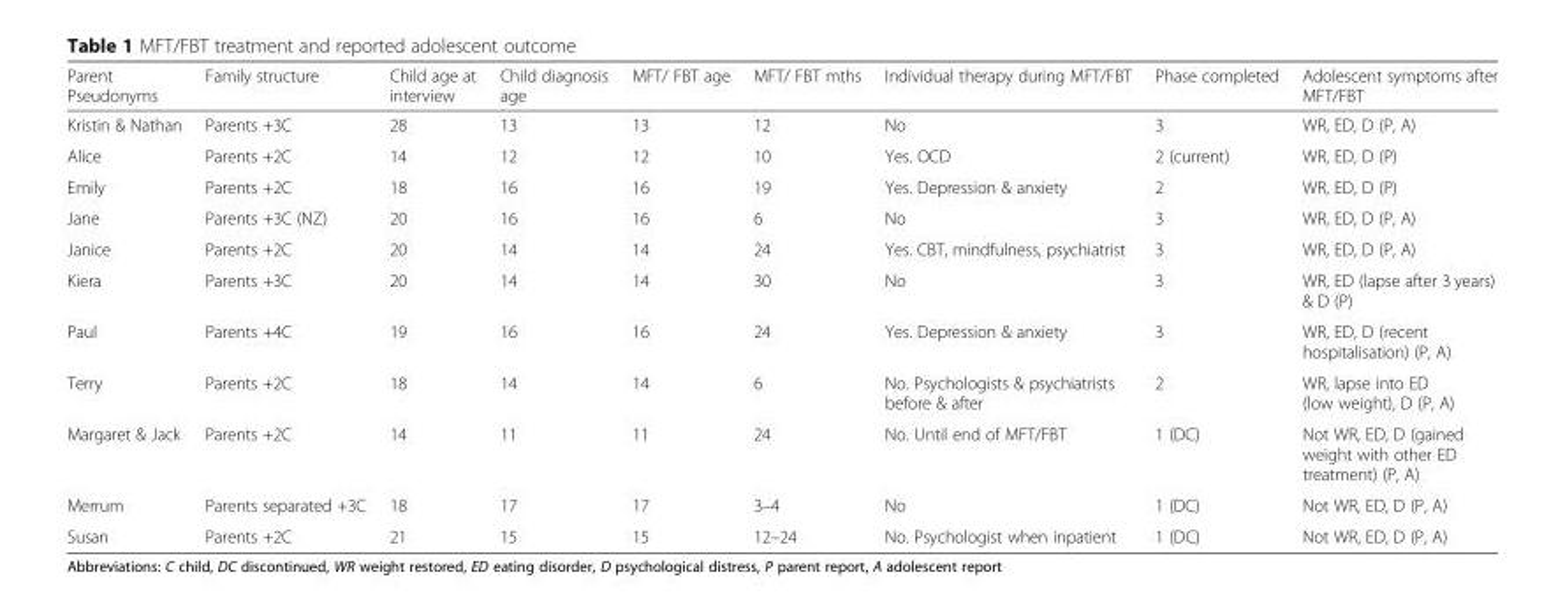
<table><thead><tr><td>Parent Pseudonyms</td><td>Family structure</td><td>Child age at interview</td><td>Child diagnosis age</td><td>MFT/ FBT age</td><td>MFT/ FBT mths</td><td>Individual therapy during MFT/FBT</td><td>Phase completed</td><td>Adolescent symptoms after MFT/FBT</td></tr></thead><tbody><tr><td>Kristin &amp; Nathan</td><td>Parents +3C</td><td>28</td><td>13</td><td>13</td><td>12</td><td>No</td><td>3</td><td>WR, ED, D (P, A)</td></tr><tr><td>Alice</td><td>Parents +2C</td><td>14</td><td>12</td><td>12</td><td>10</td><td>Yes. OCD</td><td>2 (current)</td><td>WR, ED, D (P)</td></tr><tr><td>Emily</td><td>Parents +2C</td><td>18</td><td>16</td><td>16</td><td>19</td><td>Yes. Depression &amp; anxiety</td><td>2</td><td>WR, ED, D (P)</td></tr><tr><td>Jane</td><td>Parents +3C (NZ)</td><td>20</td><td>16</td><td>16</td><td>6</td><td>No</td><td>3</td><td>WR, ED, D (P, A)</td></tr><tr><td>Janice</td><td>Parents +2C</td><td>20</td><td>14</td><td>14</td><td>24</td><td>Yes. CBT, mindfulness, psychiatrist</td><td>3</td><td>WR, ED, D (P, A)</td></tr><tr><td>Kiera</td><td>Parents +3C</td><td>20</td><td>14</td><td>14</td><td>30</td><td>No</td><td>3</td><td>WR, ED (lapse after 3 years) &amp; D (P)</td></tr><tr><td>Paul</td><td>Parents +4C</td><td>19</td><td>16</td><td>16</td><td>24</td><td>Yes. Depression &amp; anxiety</td><td>3</td><td>WR, ED, D (recent hospitalisation) (P, A)</td></tr><tr><td>Terry</td><td>Parents +2C</td><td>18</td><td>14</td><td>14</td><td>6</td><td>No. Psychologists &amp; psychiatrists before &amp; after</td><td>2</td><td>WR, lapse into ED (low weight), D (P, A)</td></tr><tr><td>Margaret &amp; Jack</td><td>Parents +2C</td><td>14</td><td>11</td><td>11</td><td>24</td><td>No. Until end of MFT/FBT</td><td>1 (DC)</td><td>Not WR, ED, D (gained weight with other ED treatment) (P, A)</td></tr><tr><td>Merrum</td><td>Parents separated +3C</td><td>18</td><td>17</td><td>17</td><td>3–4</td><td>No</td><td>1 (DC)</td><td>Not WR, ED, D (P, A)</td></tr><tr><td>Susan</td><td>Parents +2C</td><td>21</td><td>15</td><td>15</td><td>12–24</td><td>No. Psychologist when inpatient</td><td>1 (DC)</td><td>Not WR, ED, D (P, A)</td></tr></tbody></table>